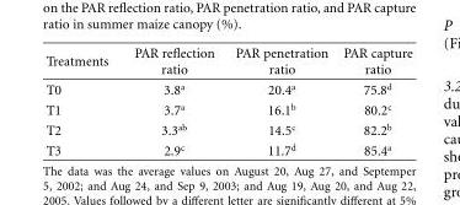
<table><thead><tr><td>Treatments</td><td>PAR reflection ratio</td><td>PAR penetration ratio</td><td>PAR capture ratio</td></tr></thead><tbody><tr><td>T0</td><td>3.8<sup>a</sup></td><td>20.4<sup>a</sup></td><td>75.8<sup>d</sup></td></tr><tr><td>T1</td><td>3.7<sup>a</sup></td><td>16.1<sup>b</sup></td><td>80.2<sup>c</sup></td></tr><tr><td>T2</td><td>3.3<sup>ab</sup></td><td>14.5<sup>c</sup></td><td>82.2<sup>b</sup></td></tr><tr><td>T3</td><td>2.9<sup>c</sup></td><td>11.7<sup>d</sup></td><td>85.4<sup>a</sup></td></tr></tbody></table>